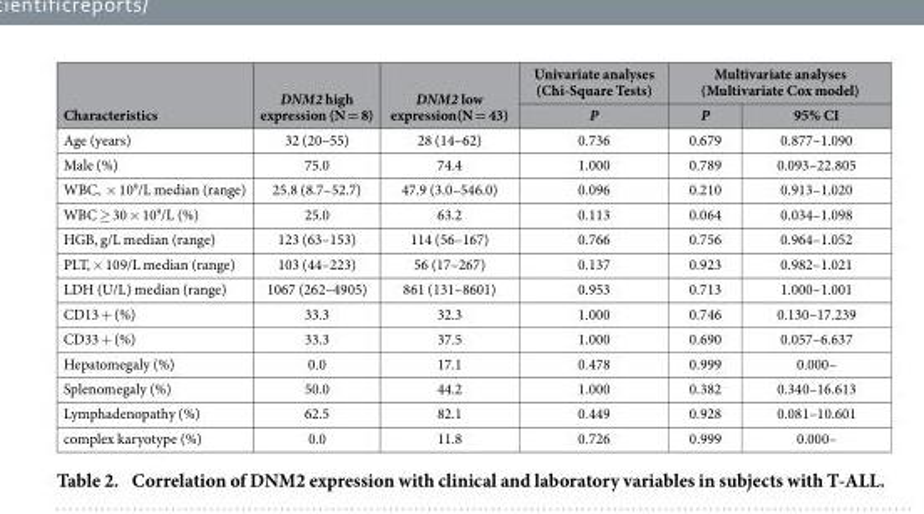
<table><thead><tr><td rowspan="2">Characteristics</td><td rowspan="2">DNM2 high expression (N = 8)</td><td rowspan="2">DNM2 low expression(N = 43)</td><td rowspan="2">Univariate analyses (Chi-Square Tests) P</td><td colspan="2">Multivariate analyses (Multivariate Cox model)</td></tr><tr><td>P</td><td>95% CI</td></tr></thead><tbody><tr><td>Age (years)</td><td>32 (20–55)</td><td>28 (14–62)</td><td>0.736</td><td>0.679</td><td>0.877–1.090</td></tr><tr><td>Male (%)</td><td>75.0</td><td>74.4</td><td>1.000</td><td>0.789</td><td>0.093–22.805</td></tr><tr><td>WBC, × 10<sup>9</sup>/L median (range)</td><td>25.8 (8.7–52.7)</td><td>47.9 (3.0–546.0)</td><td>0.096</td><td>0.210</td><td>0.913–1.020</td></tr><tr><td>WBC ≥ 30 × 10<sup>9</sup>/L (%)</td><td>25.0</td><td>63.2</td><td>0.113</td><td>0.064</td><td>0.034–1.098</td></tr><tr><td>HGB, g/L median (range)</td><td>123 (63–153)</td><td>114 (56–167)</td><td>0.766</td><td>0.756</td><td>0.964–1.052</td></tr><tr><td>PLT, × 109/L median (range)</td><td>103 (44–223)</td><td>56 (17–267)</td><td>0.137</td><td>0.923</td><td>0.982–1.021</td></tr><tr><td>LDH (U/L) median (range)</td><td>1067 (262–4905)</td><td>861 (131–8601)</td><td>0.953</td><td>0.713</td><td>1.000–1.001</td></tr><tr><td>CD13 + (%)</td><td>33.3</td><td>32.3</td><td>1.000</td><td>0.746</td><td>0.130–17.239</td></tr><tr><td>CD33 + (%)</td><td>33.3</td><td>37.5</td><td>1.000</td><td>0.690</td><td>0.057–6.637</td></tr><tr><td>Hepatomegaly (%)</td><td>0.0</td><td>17.1</td><td>0.478</td><td>0.999</td><td>0.000–</td></tr><tr><td>Splenomegaly (%)</td><td>50.0</td><td>44.2</td><td>1.000</td><td>0.382</td><td>0.340–16.613</td></tr><tr><td>Lymphadenopathy (%)</td><td>62.5</td><td>82.1</td><td>0.449</td><td>0.928</td><td>0.081–10.601</td></tr><tr><td>complex karyotype (%)</td><td>0.0</td><td>11.8</td><td>0.726</td><td>0.999</td><td>0.000–</td></tr></tbody></table>